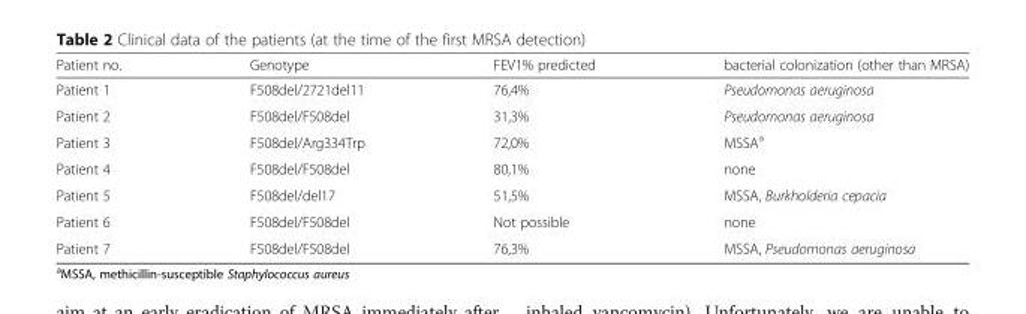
<table><thead><tr><td>Patient no.</td><td>Genotype</td><td>FEV1% predicted</td><td>bacterial colonization (other than MRSA)</td></tr></thead><tbody><tr><td>Patient 1</td><td>F508del/2721del11</td><td>76,4%</td><td>Pseudomonas aeruginosa</td></tr><tr><td>Patient 2</td><td>F508del/F508del</td><td>31,3%</td><td>Pseudomonas aeruginosa</td></tr><tr><td>Patient 3</td><td>F508del/Arg334Trp</td><td>72,0%</td><td>MSSA<sup>a</sup></td></tr><tr><td>Patient 4</td><td>F508del/F508del</td><td>80,1%</td><td>none</td></tr><tr><td>Patient 5</td><td>F508del/del17</td><td>51,5%</td><td>MSSA, Burkholderia cepacia</td></tr><tr><td>Patient 6</td><td>F508del/F508del</td><td>Not possible</td><td>none</td></tr><tr><td>Patient 7</td><td>F508del/F508del</td><td>76,3%</td><td>MSSA, Pseudomonas aeruginosa</td></tr></tbody></table>